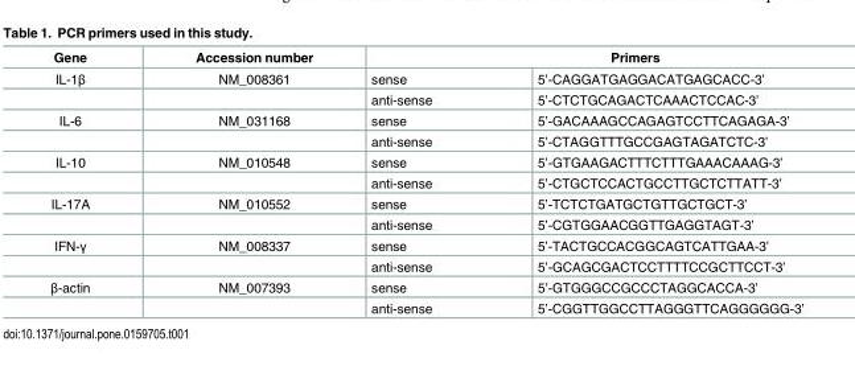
<table><thead><tr><td rowspan="2">Gene IL-1β</td><td rowspan="2">Accession number NM_008361</td><td colspan="2">Primers</td></tr><tr><td>sense</td><td>5’-CAGGATGAGGACATGAGCACC-3’</td></tr></thead><tbody><tr><td></td><td></td><td>anti-sense</td><td>5’-CTCTGCAGACTCAAACTCCAC-3’</td></tr><tr><td rowspan="2">IL-6</td><td>NM_031168</td><td>sense</td><td>5’-GACAAAGCCAGAGTCCTTCAGAGA-3’</td></tr><tr><td></td><td>anti-sense</td><td>5’-CTAGGTTTGCCGAGTAGATCTC-3’</td></tr><tr><td rowspan="2">IL-10</td><td>NM_010548</td><td>sense</td><td>5’-GTGAAGACTTTCTTTGAAACAAAG-3’</td></tr><tr><td></td><td>anti-sense</td><td>5’-CTGCTCCACTGCCTTGCTCTTATT-3’</td></tr><tr><td rowspan="2">IL-17A</td><td>NM_010552</td><td>sense</td><td>5’-TCTCTGATGCTGTTGCTGCT-3’</td></tr><tr><td></td><td>anti-sense</td><td>5’-CGTGGAACGGTTGAGGTAGT-3’</td></tr><tr><td rowspan="2">IFN-γ</td><td>NM_008337</td><td>sense</td><td>5’-TACTGCCACGGCAGTCATTGAA-3’</td></tr><tr><td></td><td>anti-sense</td><td>5’-GCAGCGACTCCTTTTCCGCTTCCT-3’</td></tr><tr><td rowspan="2">β-actin</td><td>NM_007393</td><td>sense</td><td>5’-GTGGGCCGCCCTAGGCACCA-3’</td></tr><tr><td></td><td>anti-sense</td><td>5’-CGGTTGGCCTTAGGGTTCAGGGGGG-3’</td></tr></tbody></table>